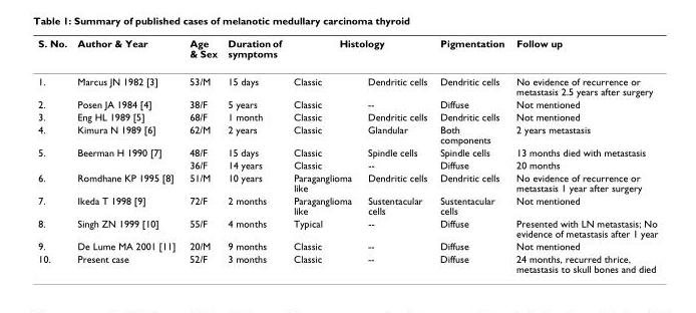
<table><thead><tr><td rowspan="2">S. No. 1.</td><td rowspan="2">Author &amp; Year Marcus JN 1982 [3]</td><td rowspan="2">Age &amp; Sex 53/M</td><td rowspan="2">Duration of symptoms 15 days</td><td colspan="2">Histology</td><td rowspan="2">Pigmentation Dendritic cells</td><td rowspan="2">Follow up No evidence of recurrence or metastasis 2.5 years after surgery</td></tr><tr><td>Classic</td><td>Dendritic cells</td></tr></thead><tbody><tr><td>2.</td><td>Posen JA 1984 [4]</td><td>38/F</td><td>5 years</td><td>Classic</td><td>--</td><td>Diffuse</td><td>Not mentioned</td></tr><tr><td>3.</td><td>Eng HL 1989 [5]</td><td>68/F</td><td>1 month</td><td>Classic</td><td>Dendritic cells</td><td>Dendritic cells</td><td>Not mentioned</td></tr><tr><td>4.</td><td>Kimura N 1989 [6]</td><td>62/M</td><td>2 years</td><td>Classic</td><td>Glandular</td><td>Both components</td><td>2 years metastasis</td></tr><tr><td rowspan="2">5.</td><td>Beerman H 1990 [7]</td><td>48/F</td><td>15 days</td><td>Classic</td><td>Spindle cells</td><td>Spindle cells</td><td>13 months died with metastasis</td></tr><tr><td></td><td>36/F</td><td>14 years</td><td>Classic</td><td>--</td><td>Diffuse</td><td>20 months</td></tr><tr><td>6.</td><td>Romdhane KP 1995 [8]</td><td>51/M</td><td>10 years</td><td>Paraganglioma like</td><td>Dendritic cells</td><td>Dendritic cells</td><td>No evidence of recurrence or metastasis 1 year after surgery</td></tr><tr><td>7.</td><td>Ikeda T 1998 [9]</td><td>72/F</td><td>2 months</td><td>Paraganglioma like</td><td>Sustentacular cells</td><td>Sustentacular cells</td><td>Not mentioned</td></tr><tr><td>8.</td><td>Singh ZN 1999 [10]</td><td>55/F</td><td>4 months</td><td>Typical</td><td>--</td><td>Diffuse</td><td>Presented with LN metastasis; No evidence of metastasis after 1 year</td></tr><tr><td>9.</td><td>De Lume MA 2001 [11]</td><td>20/M</td><td>9 months</td><td>Classic</td><td>--</td><td>Diffuse</td><td>Not mentioned</td></tr><tr><td>10.</td><td>Present case</td><td>52/F</td><td>3 months</td><td>Classic</td><td>--</td><td>Diffuse</td><td>24 months, recurred thrice, metastasis to skull bones and died</td></tr></tbody></table>